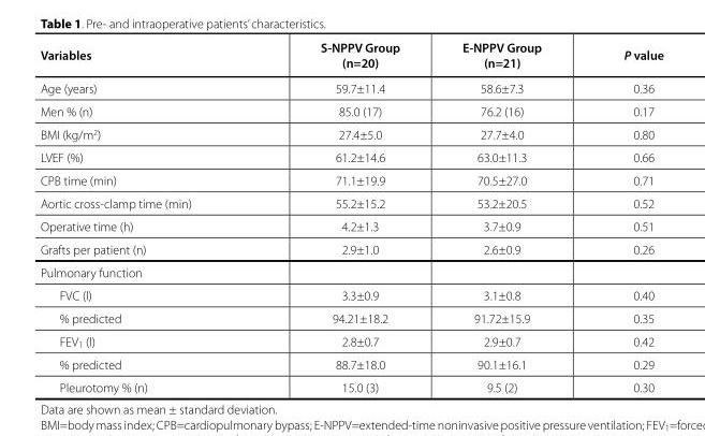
<table><thead><tr><td>Variables</td><td>S-NPPV Group (n=20)</td><td>E-NPPV Group (n=21)</td><td>P value</td></tr></thead><tbody><tr><td>Age (years)</td><td>59.7±11.4</td><td>58.6±7.3</td><td>0.36</td></tr><tr><td>Men % (n)</td><td>85.0 (17)</td><td>76.2 (16)</td><td>0.17</td></tr><tr><td>BMI (kg/m<sup>2</sup>)</td><td>27.4±5.0</td><td>27.7±4.0</td><td>0.80</td></tr><tr><td>LVEF (%)</td><td>61.2±14.6</td><td>63.0±11.3</td><td>0.66</td></tr><tr><td>CPB time (min)</td><td>71.1±19.9</td><td>70.5±27.0</td><td>0.71</td></tr><tr><td>Aortic cross-clamp time (min)</td><td>55.2±15.2</td><td>53.2±20.5</td><td>0.52</td></tr><tr><td>Operative time (h)</td><td>4.2±1.3</td><td>3.7±0.9</td><td>0.51</td></tr><tr><td>Grafts per patient (n)</td><td>2.9±1.0</td><td>2.6±0.9</td><td>0.26</td></tr><tr><td colspan="4">Pulmonary function</td></tr><tr><td>FVC (l)</td><td>3.3±0.9</td><td>3.1±0.8</td><td>0.40</td></tr><tr><td>% predicted</td><td>94.21±18.2</td><td>91.72±15.9</td><td>0.35</td></tr><tr><td>FEV<sub>1</sub> (l)</td><td>2.8±0.7</td><td>2.9±0.7</td><td>0.42</td></tr><tr><td>% predicted</td><td>88.7±18.0</td><td>90.1±16.1</td><td>0.29</td></tr><tr><td>Pleurotomy % (n)</td><td>15.0 (3)</td><td>9.5 (2)</td><td>0.30</td></tr></tbody></table>